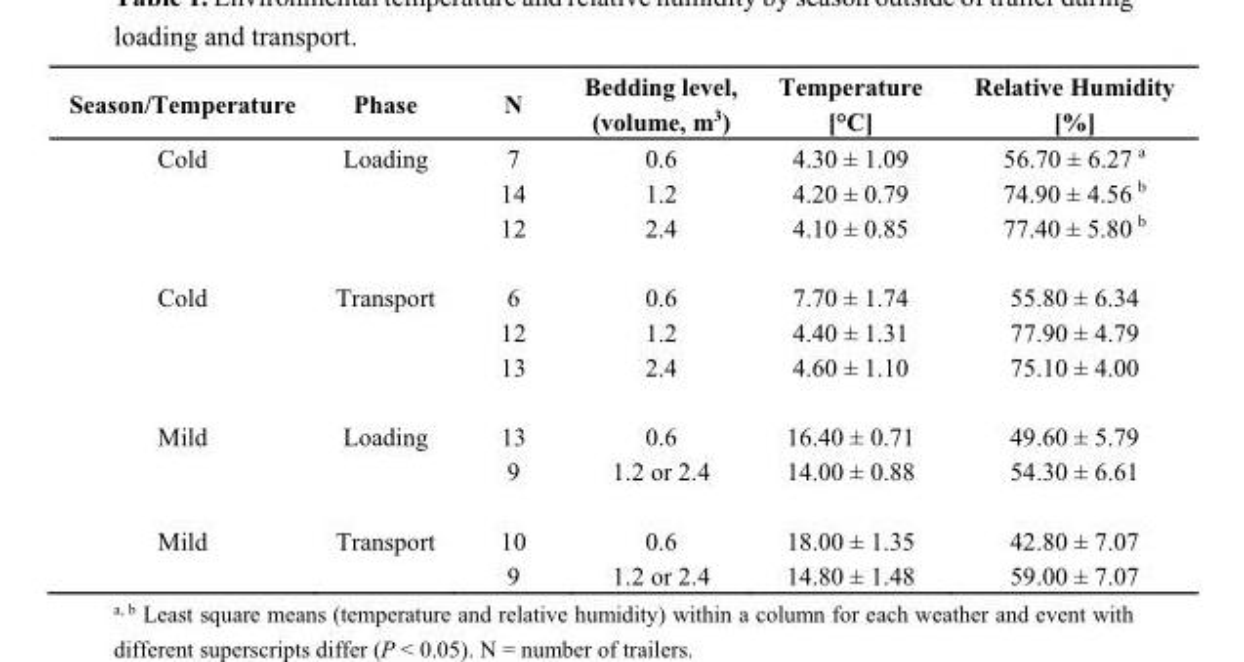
<table><thead><tr><td>Season/Temperature</td><td>Phase</td><td>N</td><td>Bedding level, (volume, m<sup>3</sup>)</td><td>Temperature [°C]</td><td>Relative Humidity [%]</td></tr></thead><tbody><tr><td rowspan="3">Cold</td><td>Loading</td><td>7</td><td>0.6</td><td>4.30 ± 1.09</td><td>56.70 ± 6.27 <sup>a</sup></td></tr><tr><td></td><td>14</td><td>1.2</td><td>4.20 ± 0.79</td><td>74.90 ± 4.56 <sup>b</sup></td></tr><tr><td></td><td>12</td><td>2.4</td><td>4.10 ± 0.85</td><td>77.40 ± 5.80 <sup>b</sup></td></tr><tr><td rowspan="3">Cold</td><td>Transport</td><td>6</td><td>0.6</td><td>7.70 ± 1.74</td><td>55.80 ± 6.34</td></tr><tr><td></td><td>12</td><td>1.2</td><td>4.40 ± 1.31</td><td>77.90 ± 4.79</td></tr><tr><td></td><td>13</td><td>2.4</td><td>4.60 ± 1.10</td><td>75.10 ± 4.00</td></tr><tr><td rowspan="2">Mild</td><td>Loading</td><td>13</td><td>0.6</td><td>16.40 ± 0.71</td><td>49.60 ± 5.79</td></tr><tr><td></td><td>9</td><td>1.2 or 2.4</td><td>14.00 ± 0.88</td><td>54.30 ± 6.61</td></tr><tr><td rowspan="2">Mild</td><td>Transport</td><td>10</td><td>0.6</td><td>18.00 ± 1.35</td><td>42.80 ± 7.07</td></tr><tr><td></td><td>9</td><td>1.2 or 2.4</td><td>14.80 ± 1.48</td><td>59.00 ± 7.07</td></tr></tbody></table>